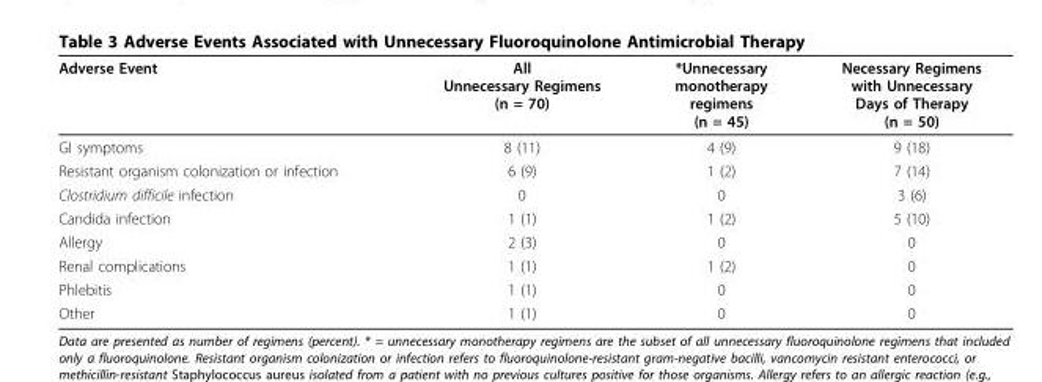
<table><thead><tr><td>Adverse Event</td><td>All Unnecessary Regimens (n = 70)</td><td>*Unnecessary monotherapy regimens (n = 45)</td><td>Necessary Regimens with Unnecessary Days of Therapy (n = 50)</td></tr></thead><tbody><tr><td>GI symptoms</td><td>8 (11)</td><td>4 (9)</td><td>9 (18)</td></tr><tr><td>Resistant organism colonization or infection</td><td>6 (9)</td><td>1 (2)</td><td>7 (14)</td></tr><tr><td>Clostridium difficile infection</td><td>0</td><td>0</td><td>3 (6)</td></tr><tr><td>Candida infection</td><td>1 (1)</td><td>1 (2)</td><td>5 (10)</td></tr><tr><td>Allergy</td><td>2 (3)</td><td>0</td><td>0</td></tr><tr><td>Renal complications</td><td>1 (1)</td><td>1 (2)</td><td>0</td></tr><tr><td>Phlebitis</td><td>1 (1)</td><td>0</td><td>0</td></tr><tr><td>Other</td><td>1 (1)</td><td>0</td><td>0</td></tr></tbody></table>